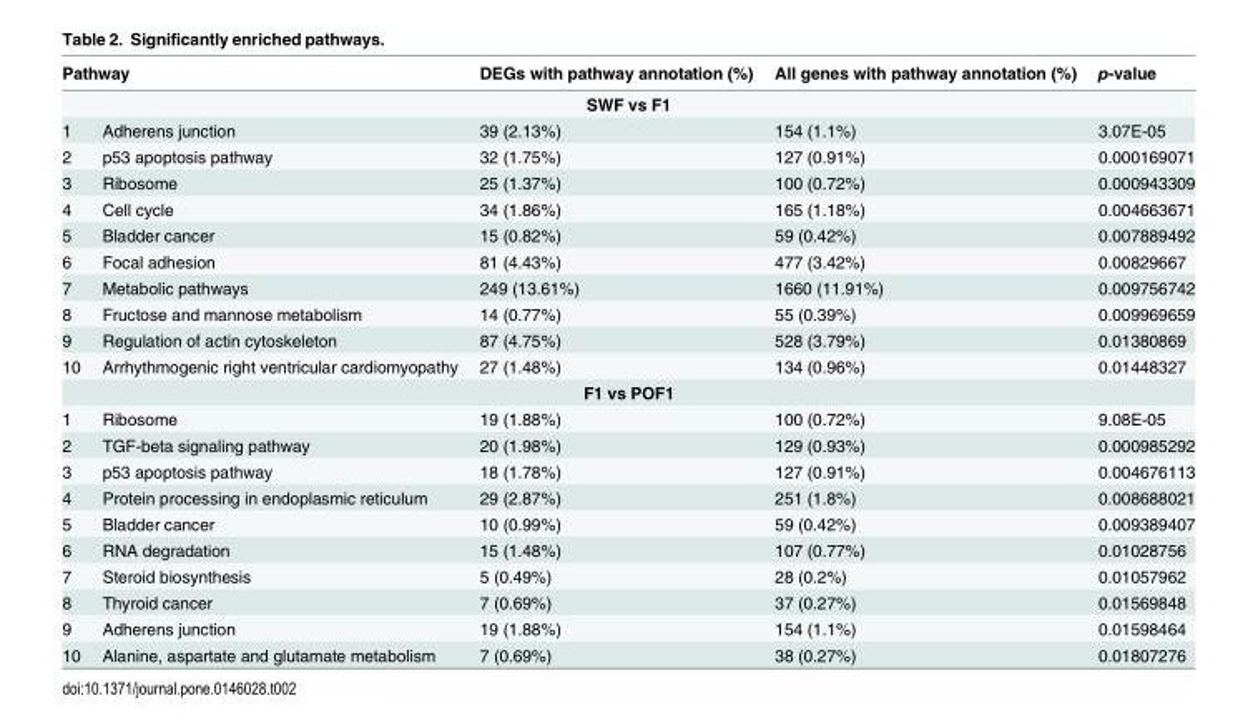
<table><thead><tr><td colspan="2">Pathway</td><td>DEGs with pathway annotation (%)</td><td>All genes with pathway annotation (%)</td><td>p-value</td></tr><tr><td colspan="5">SWF vs F1</td></tr><tr><td>1</td><td>Adherens junction</td><td>39 (2.13%)</td><td>154 (1.1%)</td><td>3.07E-05</td></tr></thead><tbody><tr><td>2</td><td>p53 apoptosis pathway</td><td>32 (1.75%)</td><td>127 (0.91%)</td><td>0.000169071</td></tr><tr><td>3</td><td>Ribosome</td><td>25 (1.37%)</td><td>100 (0.72%)</td><td>0.000943309</td></tr><tr><td>4</td><td>Cell cycle</td><td>34 (1.86%)</td><td>165 (1.18%)</td><td>0.004663671</td></tr><tr><td>5</td><td>Bladder cancer</td><td>15 (0.82%)</td><td>59 (0.42%)</td><td>0.007889492</td></tr><tr><td>6</td><td>Focal adhesion</td><td>81 (4.43%)</td><td>477 (3.42%)</td><td>0.00829667</td></tr><tr><td>7</td><td>Metabolic pathways</td><td>249 (13.61%)</td><td>1660 (11.91%)</td><td>0.009756742</td></tr><tr><td>8</td><td>Fructose and mannose metabolism</td><td>14 (0.77%)</td><td>55 (0.39%)</td><td>0.009969659</td></tr><tr><td>9</td><td>Regulation of actin cytoskeleton</td><td>87 (4.75%)</td><td>528 (3.79%)</td><td>0.01380869</td></tr><tr><td>10</td><td>Arrhythmogenic right ventricular cardiomyopathy</td><td>27 (1.48%)</td><td>134 (0.96%)</td><td>0.01448327</td></tr><tr><td colspan="5">F1 vs POF1</td></tr><tr><td>1</td><td>Ribosome</td><td>19 (1.88%)</td><td>100 (0.72%)</td><td>9.08E-05</td></tr><tr><td>2</td><td>TGF-beta signaling pathway</td><td>20 (1.98%)</td><td>129 (0.93%)</td><td>0.000985292</td></tr><tr><td>3</td><td>p53 apoptosis pathway</td><td>18 (1.78%)</td><td>127 (0.91%)</td><td>0.004676113</td></tr><tr><td>4</td><td>Protein processing in endoplasmic reticulum</td><td>29 (2.87%)</td><td>251 (1.8%)</td><td>0.008688021</td></tr><tr><td>5</td><td>Bladder cancer</td><td>10 (0.99%)</td><td>59 (0.42%)</td><td>0.009389407</td></tr><tr><td>6</td><td>RNA degradation</td><td>15 (1.48%)</td><td>107 (0.77%)</td><td>0.01028756</td></tr><tr><td>7</td><td>Steroid biosynthesis</td><td>5 (0.49%)</td><td>28 (0.2%)</td><td>0.01057962</td></tr><tr><td>8</td><td>Thyroid cancer</td><td>7 (0.69%)</td><td>37 (0.27%)</td><td>0.01569848</td></tr><tr><td>9</td><td>Adherens junction</td><td>19 (1.88%)</td><td>154 (1.1%)</td><td>0.01598464</td></tr><tr><td>10</td><td>Alanine, aspartate and glutamate metabolism</td><td>7 (0.69%)</td><td>38 (0.27%)</td><td>0.01807276</td></tr></tbody></table>